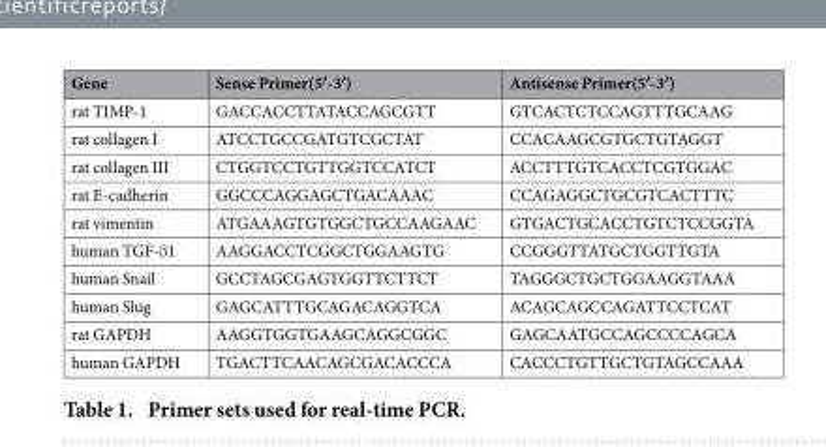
<table><thead><tr><td>Gene</td><td>Sense Primer(5′-3′)</td><td>Antisense Primer(5′-3′)</td></tr></thead><tbody><tr><td>rat TIMP-1</td><td>GACCACCTTATACCAGCGTT</td><td>GTCACTCTCCAGTTTGCAAG</td></tr><tr><td>rat collagen I</td><td>ATCCTGCCGATGTCGCTAT</td><td>CCACAAGCGTGCTGTAGGT</td></tr><tr><td>rat collagen III</td><td>CTGGTCCTGTTGGTCCATCT</td><td>ACCTTTGTCACCTCGTGGAC</td></tr><tr><td>rat E-cadherin</td><td>GGCCCAGGAGCTGACAAAC</td><td>CCAGAGGCTGCGTCACTTTC</td></tr><tr><td>rat vimentin</td><td>ATGAAAGTGTGGCTGCCAAGAAC</td><td>GTGACTGCACCTGTCTCCGGTA</td></tr><tr><td>human TGF-β 1</td><td>AAGGACCTCGGCTGGAAGTG</td><td>CCGGGTTATGCTGGTTGTA</td></tr><tr><td>human Snail</td><td>GCCTAGCGAGTGGTTCTTCT</td><td>TAGGGCTGCTGGAAGGTAAA</td></tr><tr><td>human Slug</td><td>GAGCATTTGCAGACAGGTCA</td><td>ACAGCAGCCAGATTCCTCAT</td></tr><tr><td>rat GAPDH</td><td>AAGGTGGTGAAGCAGGCGGC</td><td>GAGCAATGCCAGCCCCAGCA</td></tr><tr><td>human GAPDH</td><td>TGACTTCAACAGCGACACCCA</td><td>CACCCTGTTGCTGTAGCCAAA</td></tr></tbody></table>